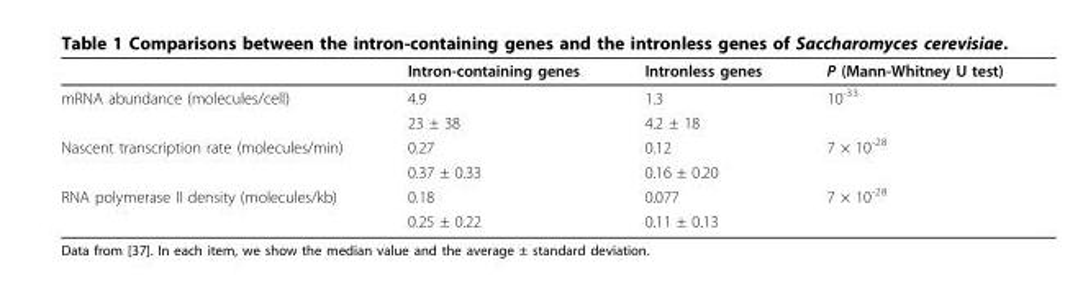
<table><thead><tr><td></td><td>Intron-containing genes</td><td>Intronless genes</td><td>P (Mann-Whitney U test)</td></tr></thead><tbody><tr><td rowspan="2">mRNA abundance (molecules/cell)</td><td>4.9</td><td>1.3</td><td>10<sup>-33</sup></td></tr><tr><td>23 ± 38</td><td>4.2 ± 18</td><td></td></tr><tr><td rowspan="2">Nascent transcription rate (molecules/min)</td><td>0.27</td><td>0.12</td><td>7 × 10<sup>-28</sup></td></tr><tr><td>0.37 ± 0.33</td><td>0.16 ± 0.20</td><td></td></tr><tr><td rowspan="2">RNA polymerase II density (molecules/kb)</td><td>0.18</td><td>0.077</td><td>7 × 10<sup>-28</sup></td></tr><tr><td>0.25 ± 0.22</td><td>0.11 ± 0.13</td><td></td></tr></tbody></table>